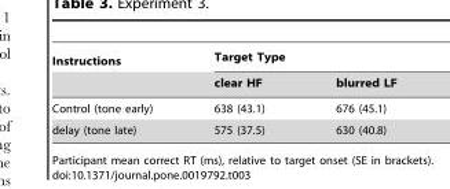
<table><thead><tr><td rowspan="2">Instructions</td><td colspan="2">Target Type</td></tr><tr><td>clear HF</td><td>blurred LF</td></tr></thead><tbody><tr><td>Control (tone early)</td><td>638 (43.1)</td><td>676 (45.1)</td></tr><tr><td>delay (tone late)</td><td>575 (37.5)</td><td>630 (40.8)</td></tr></tbody></table>